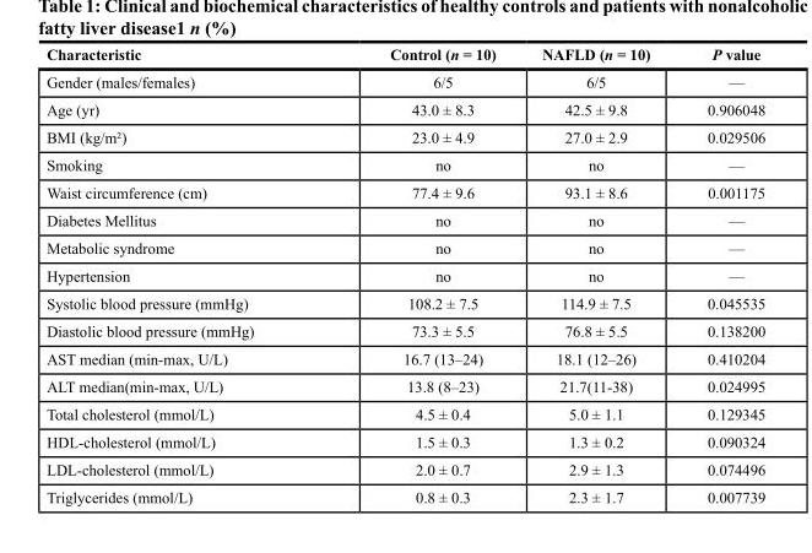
<table><thead><tr><td>characteristic</td><td>control (n = 10)</td><td>NAFLD (n = 10)</td><td>P value</td></tr></thead><tbody><tr><td>Gender (males/females)</td><td>6/5</td><td>6/5</td><td>—</td></tr><tr><td>Age (yr)</td><td>43.0 ± 8.3</td><td>42.5 ± 9.8</td><td>0.906048</td></tr><tr><td>BMI (kg/m²)</td><td>23.0 ± 4.9</td><td>27.0 ± 2.9</td><td>0.029506</td></tr><tr><td>Smoking</td><td>no</td><td>no</td><td>—</td></tr><tr><td>Waist circumference (cm)</td><td>77.4 ± 9.6</td><td>93.1 ± 8.6</td><td>0.001175</td></tr><tr><td>Diabetes Mellitus</td><td>no</td><td>no</td><td>—</td></tr><tr><td>Metabolic syndrome</td><td>no</td><td>no</td><td>—</td></tr><tr><td>Hypertension</td><td>no</td><td>no</td><td>—</td></tr><tr><td>Systolic blood pressure (mmHg)</td><td>108.2 ± 7.5</td><td>114.9 ± 7.5</td><td>0.045535</td></tr><tr><td>Diastolic blood pressure (mmHg)</td><td>73.3 ± 5.5</td><td>76.8 ± 5.5</td><td>0.138200</td></tr><tr><td>AST median (min-max, U/L)</td><td>16.7 (13–24)</td><td>18.1 (12–26)</td><td>0.410204</td></tr><tr><td>ALT median(min-max, U/L)</td><td>13.8 (8–23)</td><td>21.7(11-38)</td><td>0.024995</td></tr><tr><td>Total cholesterol (mmol/L)</td><td>4.5 ± 0.4</td><td>5.0 ± 1.1</td><td>0.129345</td></tr><tr><td>HDL-cholesterol (mmol/L)</td><td>1.5 ± 0.3</td><td>1.3 ± 0.2</td><td>0.090324</td></tr><tr><td>LDL-cholesterol (mmol/L)</td><td>2.0 ± 0.7</td><td>2.9 ± 1.3</td><td>0.074496</td></tr><tr><td>Triglycerides (mmol/L)</td><td>0.8 ± 0.3</td><td>2.3 ± 1.7</td><td>0.007739</td></tr></tbody></table>